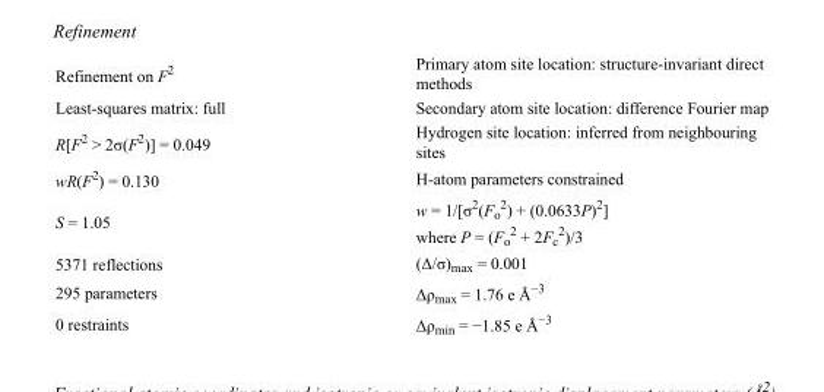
<table><tbody><tr><td>Refinement on F<sup>2</sup></td><td>Primary atom site location: structure-invariant direct methods</td></tr><tr><td>Least-squares matrix: full</td><td>Secondary atom site location: difference Fourier map</td></tr><tr><td>R[F<sup>2</sup> &gt; 2σ(F<sup>2</sup>)] = 0.049</td><td>Hydrogen site location: inferred from neighbouring sites</td></tr><tr><td>wR(F<sup>2</sup>) = 0.130</td><td>H-atom parameters constrained</td></tr><tr><td>S = 1.05</td><td>w = 1/[σ<sup>2</sup>(F<sub>o</sub> <sup>2</sup>) + (0.0633P)<sup>2</sup>] where P = (F<sub>o</sub> <sup>2</sup> + 2F<sub>c</sub> <sup>2</sup>)/3</td></tr><tr><td>5371 reflections</td><td>(Δ/σ)<sub>max</sub> = 0.001</td></tr><tr><td>295 parameters</td><td>Δρ<sub>max</sub> = 1.76 e Å<sup>−3</sup></td></tr><tr><td>0 restraints</td><td>Δρ<sub>min</sub> = −1.85 e Å<sup>−3</sup></td></tr></tbody></table>